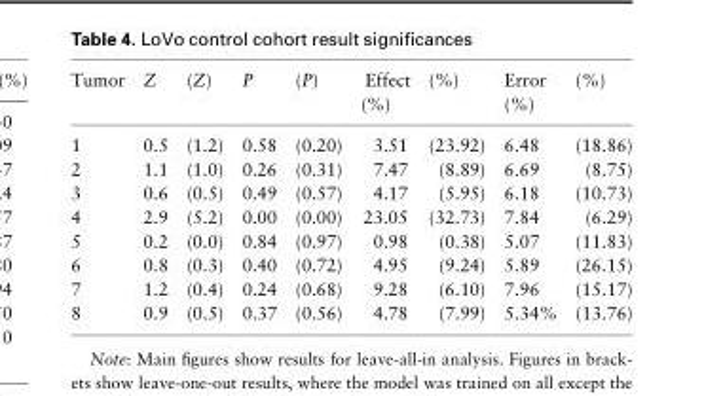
<table><thead><tr><td>Tumor</td><td>Z</td><td>(Z)</td><td>P</td><td>(P)</td><td>Effect (%)</td><td>(%)</td><td>Error (%)</td><td>(%)</td></tr></thead><tbody><tr><td>1</td><td>0.5</td><td>(1.2)</td><td>0.58</td><td>(0.20)</td><td>3.51</td><td>(23.92)</td><td>6.48</td><td>(18.86)</td></tr><tr><td>2</td><td>1.1</td><td>(1.0)</td><td>0.26</td><td>(0.31)</td><td>7.47</td><td>(8.89)</td><td>6.69</td><td>(8.75)</td></tr><tr><td>3</td><td>0.6</td><td>(0.5)</td><td>0.49</td><td>(0.57)</td><td>4.17</td><td>(5.95)</td><td>6.18</td><td>(10.73)</td></tr><tr><td>4</td><td>2.9</td><td>(5.2)</td><td>0.00</td><td>(0.00)</td><td>23.05</td><td>(32.73)</td><td>7.84</td><td>(6.29)</td></tr><tr><td>5</td><td>0.2</td><td>(0.0)</td><td>0.84</td><td>(0.97)</td><td>0.98</td><td>(0.38)</td><td>5.07</td><td>(11.83)</td></tr><tr><td>6</td><td>0.8</td><td>(0.3)</td><td>0.40</td><td>(0.72)</td><td>4.95</td><td>(9.24)</td><td>5.89</td><td>(26.15)</td></tr><tr><td>7</td><td>1.2</td><td>(0.4)</td><td>0.24</td><td>(0.68)</td><td>9.28</td><td>(6.10)</td><td>7.96</td><td>(15.17)</td></tr><tr><td>8</td><td>0.9</td><td>(0.5)</td><td>0.37</td><td>(0.56)</td><td>4.78</td><td>(7.99)</td><td>5.34%</td><td>(13.76)</td></tr></tbody></table>